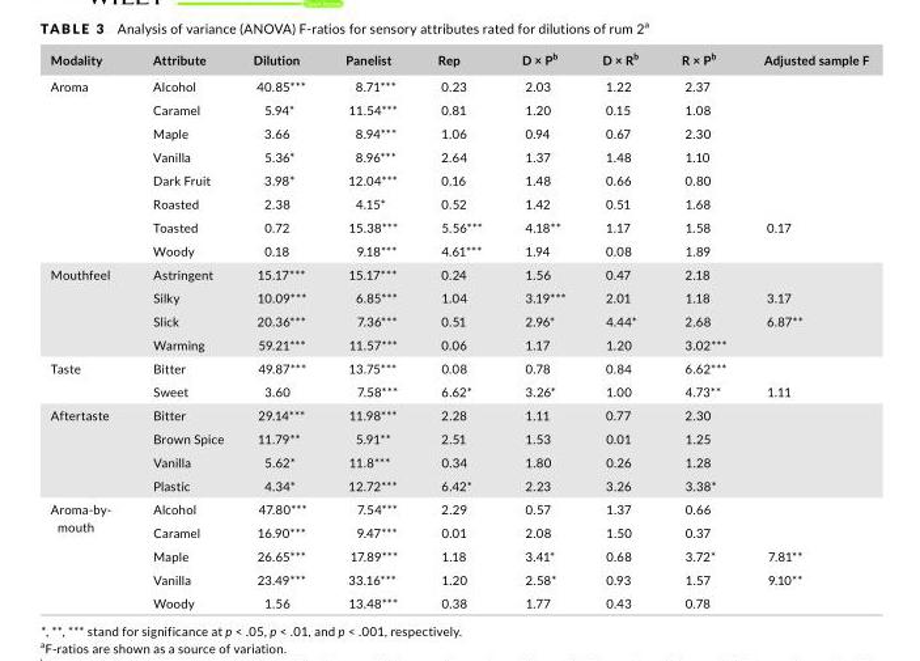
<table><thead><tr><td>Modality</td><td>Attribute</td><td>Dilution</td><td>Panelist</td><td>Rep</td><td>D × P<sup>b</sup></td><td>D × R<sup>b</sup></td><td>R × P<sup>b</sup></td><td>Adjusted sample F</td></tr></thead><tbody><tr><td rowspan="8">Aroma</td><td>Alcohol</td><td>40.85***</td><td>8.71***</td><td>0.23</td><td>2.03</td><td>1.22</td><td>2.37</td><td></td></tr><tr><td>Caramel</td><td>5.94*</td><td>11.54***</td><td>0.81</td><td>1.20</td><td>0.15</td><td>1.08</td><td></td></tr><tr><td>Maple</td><td>3.66</td><td>8.94***</td><td>1.06</td><td>0.94</td><td>0.67</td><td>2.30</td><td></td></tr><tr><td>Vanilla</td><td>5.36*</td><td>8.96***</td><td>2.64</td><td>1.37</td><td>1.48</td><td>1.10</td><td></td></tr><tr><td>Dark Fruit</td><td>3.98*</td><td>12.04***</td><td>0.16</td><td>1.48</td><td>0.66</td><td>0.80</td><td></td></tr><tr><td>Roasted</td><td>2.38</td><td>4.15*</td><td>0.52</td><td>1.42</td><td>0.51</td><td>1.68</td><td></td></tr><tr><td>Toasted</td><td>0.72</td><td>15.38***</td><td>5.56***</td><td>4.18**</td><td>1.17</td><td>1.58</td><td>0.17</td></tr><tr><td>Woody</td><td>0.18</td><td>9.18***</td><td>4.61***</td><td>1.94</td><td>0.08</td><td>1.89</td><td></td></tr><tr><td rowspan="4">Mouthfeel</td><td>Astringent</td><td>15.17***</td><td>15.17***</td><td>0.24</td><td>1.56</td><td>0.47</td><td>2.18</td><td></td></tr><tr><td>Silky</td><td>10.09***</td><td>6.85***</td><td>1.04</td><td>3.19***</td><td>2.01</td><td>1.18</td><td>3.17</td></tr><tr><td>Slick</td><td>20.36***</td><td>7.36***</td><td>0.51</td><td>2.96*</td><td>4.44*</td><td>2.68</td><td>6.87**</td></tr><tr><td>Warming</td><td>59.21***</td><td>11.57***</td><td>0.06</td><td>1.17</td><td>1.20</td><td>3.02***</td><td></td></tr><tr><td rowspan="2">Taste</td><td>Bitter</td><td>49.87***</td><td>13.75***</td><td>0.08</td><td>0.78</td><td>0.84</td><td>6.62***</td><td></td></tr><tr><td>Sweet</td><td>3.60</td><td>7.58***</td><td>6.62*</td><td>3.26*</td><td>1.00</td><td>4.73**</td><td>1.11</td></tr><tr><td rowspan="4">Aftertaste</td><td>Bitter</td><td>29.14***</td><td>11.98***</td><td>2.28</td><td>1.11</td><td>0.77</td><td>2.30</td><td></td></tr><tr><td>Brown Spice</td><td>11.79**</td><td>5.91**</td><td>2.51</td><td>1.53</td><td>0.01</td><td>1.25</td><td></td></tr><tr><td>Vanilla</td><td>5.62*</td><td>11.8***</td><td>0.34</td><td>1.80</td><td>0.26</td><td>1.28</td><td></td></tr><tr><td>Plastic</td><td>4.34*</td><td>12.72***</td><td>6.42*</td><td>2.23</td><td>3.26</td><td>3.38*</td><td></td></tr><tr><td rowspan="5">Aroma- by- mouth</td><td>Alcohol</td><td>47.80***</td><td>7.54***</td><td>2.29</td><td>0.57</td><td>1.37</td><td>0.66</td><td></td></tr><tr><td>Caramel</td><td>16.90***</td><td>9.47***</td><td>0.01</td><td>2.08</td><td>1.50</td><td>0.37</td><td></td></tr><tr><td>Maple</td><td>26.65***</td><td>17.89***</td><td>1.18</td><td>3.41*</td><td>0.68</td><td>3.72*</td><td>7.81**</td></tr><tr><td>Vanilla</td><td>23.49***</td><td>33.16***</td><td>1.20</td><td>2.58*</td><td>0.93</td><td>1.57</td><td>9.10**</td></tr><tr><td>Woody</td><td>1.56</td><td>13.48***</td><td>0.38</td><td>1.77</td><td>0.43</td><td>0.78</td><td></td></tr></tbody></table>